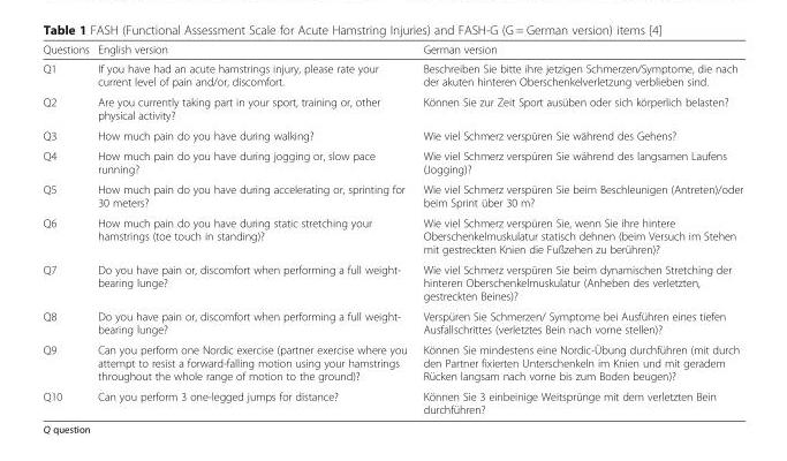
<table><thead><tr><td>Questions</td><td>English version</td><td>German version</td></tr></thead><tbody><tr><td>Q1</td><td>If you have had an acute hamstrings injury, please rate your current level of pain and/or, discomfort.</td><td>Beschreiben Sie bitte ihre jetzigen Schmerzen/Symptome, die nach der akuten hinteren Oberschenkelverletzung verblieben sind.</td></tr><tr><td>Q2</td><td>Are you currently taking part in your sport, training or, other physical activity?</td><td>Können Sie zur Zeit Sport ausüben oder sich körperlich belasten?</td></tr><tr><td>Q3</td><td>How much pain do you have during walking?</td><td>Wie viel Schmerz verspüren Sie während des Gehens?</td></tr><tr><td>Q4</td><td>How much pain do you have during jogging or, slow pace running?</td><td>Wie viel Schmerz verspüren Sie während des langsamen Laufens (Jogging)?</td></tr><tr><td>Q5</td><td>How much pain do you have during accelerating or, sprinting for 30 meters?</td><td>Wie viel Schmerz verspüren Sie beim Beschleunigen (Antreten)/oder beim Sprint über 30 m?</td></tr><tr><td>Q6</td><td>How much pain do you have during static stretching your hamstrings (toe touch in standing)?</td><td>Wie viel Schmerz verspüren Sie, wenn Sie ihre hintere Oberschenkelmuskulatur statisch dehnen (beim Versuch im Stehen mit gestreckten Knien die Fußzehen zu berühren)?</td></tr><tr><td>Q7</td><td>Do you have pain or, discomfort when performing a full weight- bearing lunge?</td><td>Wie viel Schmerz verspüren Sie beim dynamischen Stretching der hinteren Oberschenkelmuskulatur (Anheben des verletzten, gestreckten Beines)?</td></tr><tr><td>Q8</td><td>Do you have pain or, discomfort when performing a full weight- bearing lunge?</td><td>Verspüren Sie Schmerzen/ Symptome bei Ausführen eines tiefen Ausfallschrittes (verletztes Bein nach vorne stellen)?</td></tr><tr><td>Q9</td><td>Can you perform one Nordic exercise (partner exercise where you attempt to resist a forward-falling motion using your hamstrings throughout the whole range of motion to the ground)?</td><td>Können Sie mindestens eine Nordic-Übung durchführen (mit durch den Partner fixierten Unterschenkeln im Knien und mit geradem Rücken langsam nach vorne bis zum Boden beugen)?</td></tr><tr><td>Q10</td><td>Can you perform 3 one-legged jumps for distance?</td><td>Können Sie 3 einbeinige Weitsprünge mit dem verletzten Bein durchführen?</td></tr></tbody></table>